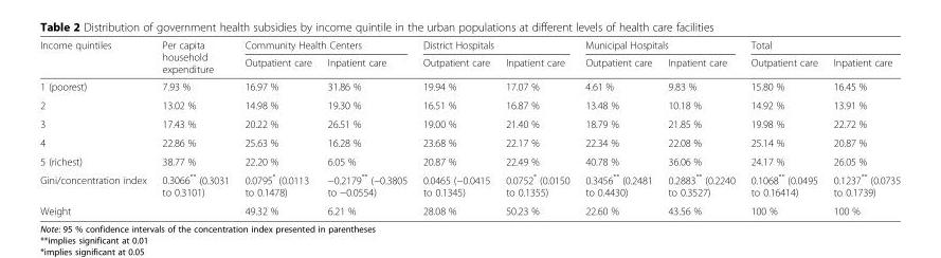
<table><thead><tr><td rowspan="2">Income quintiles</td><td rowspan="2">Per capita household expenditure</td><td colspan="2">Community Health Centers</td><td colspan="2">District Hospitals</td><td colspan="2">Municipal Hospitals</td><td colspan="2">Total</td></tr><tr><td>Outpatient care</td><td>Inpatient care</td><td>Outpatient care</td><td>Inpatient care</td><td>Outpatient care</td><td>Inpatient care</td><td>Outpatient care</td><td>Inpatient care</td></tr></thead><tbody><tr><td>1 (poorest)</td><td>7.93 %</td><td>16.97 %</td><td>31.86 %</td><td>19.94 %</td><td>17.07 %</td><td>4.61 %</td><td>9.83 %</td><td>15.80 %</td><td>16.45 %</td></tr><tr><td>2</td><td>13.02 %</td><td>14.98 %</td><td>19.30 %</td><td>16.51 %</td><td>16.87 %</td><td>13.48 %</td><td>10.18 %</td><td>14.92 %</td><td>13.91 %</td></tr><tr><td>3</td><td>17.43 %</td><td>20.22 %</td><td>26.51 %</td><td>19.00 %</td><td>21.40 %</td><td>18.79 %</td><td>21.85 %</td><td>19.98 %</td><td>22.72 %</td></tr><tr><td>4</td><td>22.86 %</td><td>25.63 %</td><td>16.28 %</td><td>23.68 %</td><td>22.17 %</td><td>22.34 %</td><td>22.08 %</td><td>25.14 %</td><td>20.87 %</td></tr><tr><td>5 (richest)</td><td>38.77 %</td><td>22.20 %</td><td>6.05 %</td><td>20.87 %</td><td>22.49 %</td><td>40.78 %</td><td>36.06 %</td><td>24.17 %</td><td>26.05 %</td></tr><tr><td>Gini/concentration index</td><td>0.3066** (0.3031 to 0.3101)</td><td>0.0795* (0.0113 to 0.1478)</td><td>−0.2179** (−0.3805 to −0.0554)</td><td>0.0465 (−0.0415 to 0.1345)</td><td>0.0752* (0.0150 to 0.1355)</td><td>0.3456** (0.2481 to 0.4430)</td><td>0.2883** (0.2240 to 0.3527)</td><td>0.1068** (0.0495 to 0.16414)</td><td>0.1237** (0.0735 to 0.1739)</td></tr><tr><td>Weight</td><td></td><td>49.32 %</td><td>6.21 %</td><td>28.08 %</td><td>50.23 %</td><td>22.60 %</td><td>43.56 %</td><td>100 %</td><td>100 %</td></tr></tbody></table>